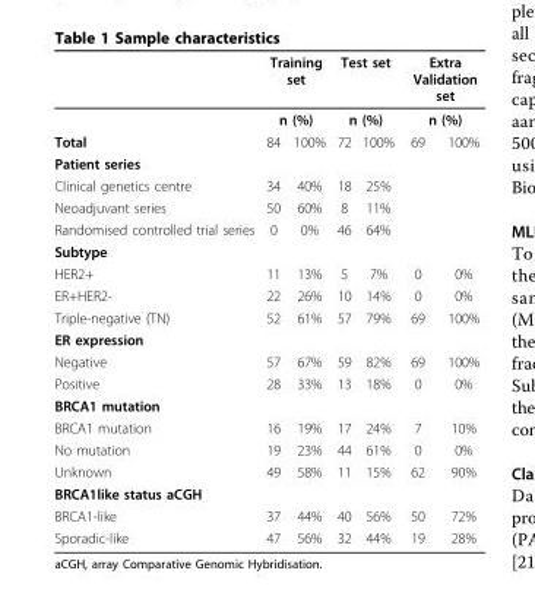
<table><thead><tr><td rowspan="3">Total</td><td rowspan="2" colspan="2">Training set n (%)</td><td rowspan="2" colspan="2">Test set n (%)</td><td rowspan="2" colspan="2">Extra Validation set n (%)</td></tr><tr></tr><tr><td>84</td><td>100%</td><td>72</td><td>100%</td><td>69</td><td>100%</td></tr></thead><tbody><tr><td colspan="7">Patient series</td></tr><tr><td>Clinical genetics centre</td><td>34</td><td>40%</td><td>18</td><td>25%</td><td></td><td></td></tr><tr><td>Neoadjuvant series</td><td>50</td><td>60%</td><td>8</td><td>11%</td><td></td><td></td></tr><tr><td>Randomised controlled trial series</td><td>0</td><td>0%</td><td>46</td><td>64%</td><td></td><td></td></tr><tr><td colspan="7">Subtype</td></tr><tr><td>HER2+</td><td>11</td><td>13%</td><td>5</td><td>7%</td><td>0</td><td>0%</td></tr><tr><td>ER+HER2-</td><td>22</td><td>26%</td><td>10</td><td>14%</td><td>0</td><td>0%</td></tr><tr><td>Triple-negative (TN)</td><td>52</td><td>61%</td><td>57</td><td>79%</td><td>69</td><td>100%</td></tr><tr><td colspan="7">ER expression</td></tr><tr><td>Negative</td><td>57</td><td>67%</td><td>59</td><td>82%</td><td>69</td><td>100%</td></tr><tr><td>Positive</td><td>28</td><td>33%</td><td>13</td><td>18%</td><td>0</td><td>0%</td></tr><tr><td colspan="7">BRCA1 mutation</td></tr><tr><td>BRCA1 mutation</td><td>16</td><td>19%</td><td>17</td><td>24%</td><td>7</td><td>10%</td></tr><tr><td>No mutation</td><td>19</td><td>23%</td><td>44</td><td>61%</td><td>0</td><td>0%</td></tr><tr><td>Unknown</td><td>49</td><td>58%</td><td>11</td><td>15%</td><td>62</td><td>90%</td></tr><tr><td colspan="7">BRCA1like status aCGH</td></tr><tr><td>BRCA1-like</td><td>37</td><td>44%</td><td>40</td><td>56%</td><td>50</td><td>72%</td></tr><tr><td>Sporadic-like</td><td>47</td><td>56%</td><td>32</td><td>44%</td><td>19</td><td>28%</td></tr></tbody></table>